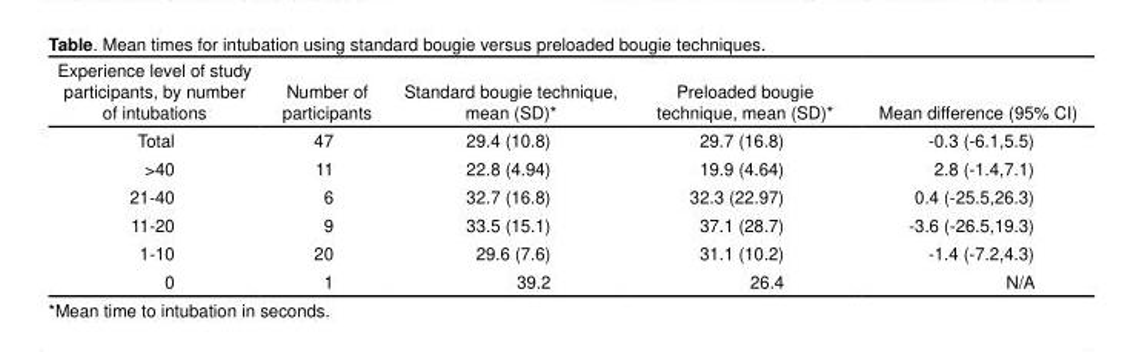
<table><thead><tr><td>Experience level of study participants, by number of intubations</td><td>Number of participants</td><td>Standard bougie technique, mean (SD)*</td><td>Preloaded bougie technique, mean (SD)*</td><td>Mean difference (95% CI)</td></tr></thead><tbody><tr><td>Total</td><td>47</td><td>29.4 (10.8)</td><td>29.7 (16.8)</td><td>-0.3 (-6.1,5.5)</td></tr><tr><td>&gt;40</td><td>11</td><td>22.8 (4.94)</td><td>19.9 (4.64)</td><td>2.8 (-1.4,7.1)</td></tr><tr><td>21-40</td><td>6</td><td>32.7 (16.8)</td><td>32.3 (22.97)</td><td>0.4 (-25.5,26.3)</td></tr><tr><td>11-20</td><td>9</td><td>33.5 (15.1)</td><td>37.1 (28.7)</td><td>-3.6 (-26.5,19.3)</td></tr><tr><td>1-10</td><td>20</td><td>29.6 (7.6)</td><td>31.1 (10.2)</td><td>-1.4 (-7.2,4.3)</td></tr><tr><td>0</td><td>1</td><td>39.2</td><td>26.4</td><td>N/A</td></tr></tbody></table>